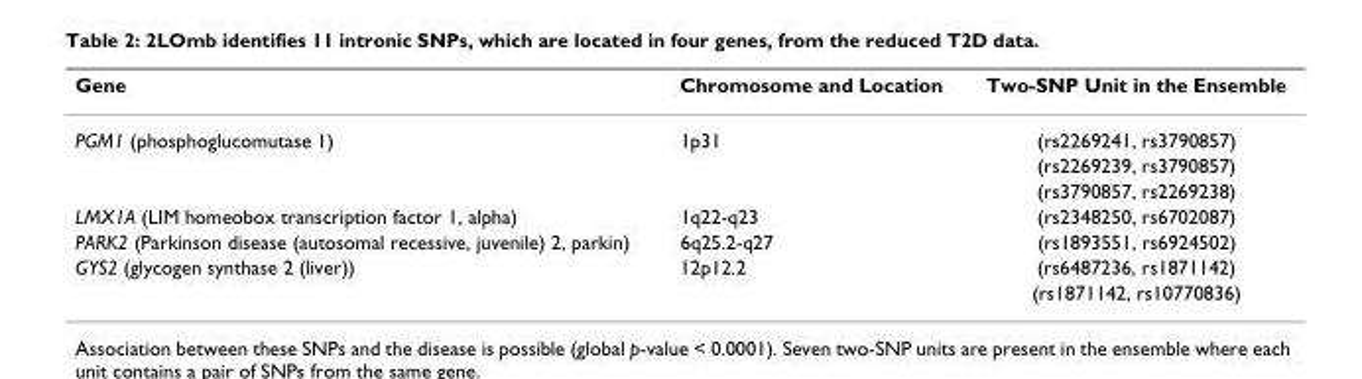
<table><thead><tr><td>Gene</td><td>Chromosome and Location</td><td>Two-SNP Unit in the Ensemble</td></tr></thead><tbody><tr><td rowspan="3">PGM1 (phosphoglucomutase 1)</td><td>1p31</td><td>(rs2269241, rs3790857)</td></tr><tr><td></td><td>(rs2269239, rs3790857)</td></tr><tr><td></td><td>(rs3790857, rs2269238)</td></tr><tr><td>LMX1A (LIM homeobox transcription factor 1, alpha)</td><td>1q22-q23</td><td>(rs2348250, rs6702087)</td></tr><tr><td>PARK2 (Parkinson disease (autosomal recessive, juvenile) 2, parkin)</td><td>6q25.2-q27</td><td>(rs1893551, rs6924502)</td></tr><tr><td rowspan="2">GYS2 (glycogen synthase 2 (liver))</td><td>12p12.2</td><td>(rs6487236, rs1871142)</td></tr><tr><td></td><td>(rs1871142, rs10770836)</td></tr></tbody></table>